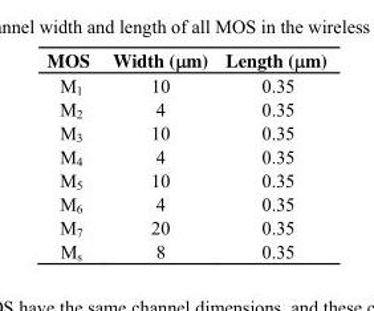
<table><thead><tr><td>MOS</td><td>Width (μm)</td><td>Length (μm)</td></tr></thead><tbody><tr><td>M<sub>1</sub></td><td>10</td><td>0.35</td></tr><tr><td>M<sub>2</sub></td><td>4</td><td>0.35</td></tr><tr><td>M<sub>3</sub></td><td>10</td><td>0.35</td></tr><tr><td>M<sub>4</sub></td><td>4</td><td>0.35</td></tr><tr><td>M<sub>5</sub></td><td>10</td><td>0.35</td></tr><tr><td>M<sub>6</sub></td><td>4</td><td>0.35</td></tr><tr><td>M<sub>7</sub></td><td>20</td><td>0.35</td></tr><tr><td>M<sub>s</sub></td><td>8</td><td>0.35</td></tr></tbody></table>